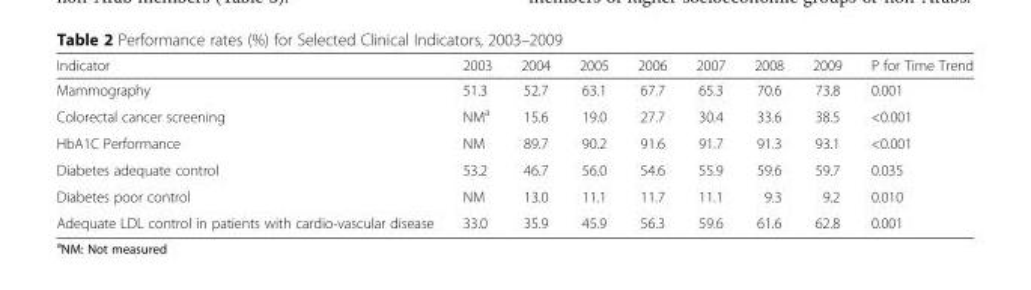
<table><thead><tr><td>Indicator</td><td>2003</td><td>2004</td><td>2005</td><td>2006</td><td>2007</td><td>2008</td><td>2009</td><td>P for Time Trend</td></tr></thead><tbody><tr><td>Mammography</td><td>51.3</td><td>52.7</td><td>63.1</td><td>67.7</td><td>65.3</td><td>70.6</td><td>73.8</td><td>0.001</td></tr><tr><td>Colorectal cancer screening</td><td>NM<sup>a</sup></td><td>15.6</td><td>19.0</td><td>27.7</td><td>30.4</td><td>33.6</td><td>38.5</td><td>&lt;0.001</td></tr><tr><td>HbA1C Performance</td><td>NM</td><td>89.7</td><td>90.2</td><td>91.6</td><td>91.7</td><td>91.3</td><td>93.1</td><td>&lt;0.001</td></tr><tr><td>Diabetes adequate control</td><td>53.2</td><td>46.7</td><td>56.0</td><td>54.6</td><td>55.9</td><td>59.6</td><td>59.7</td><td>0.035</td></tr><tr><td>Diabetes poor control</td><td>NM</td><td>13.0</td><td>11.1</td><td>11.7</td><td>11.1</td><td>9.3</td><td>9.2</td><td>0.010</td></tr><tr><td>Adequate LDL control in patients with cardio-vascular disease</td><td>33.0</td><td>35.9</td><td>45.9</td><td>56.3</td><td>59.6</td><td>61.6</td><td>62.8</td><td>0.001</td></tr></tbody></table>